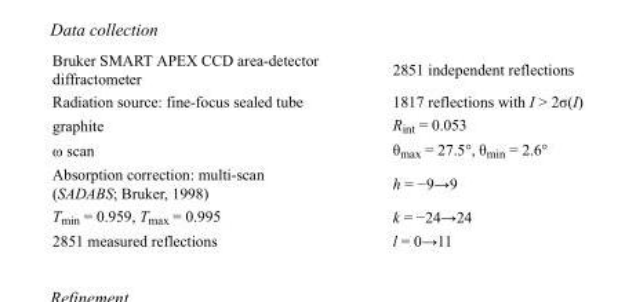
<table><tbody><tr><td>Bruker SMART APEX CCD area-detector diffractometer</td><td>2851 independent reflections</td></tr><tr><td>Radiation source: fine-focus sealed tube</td><td>1817 reflections with I &gt; 2σ(I)</td></tr><tr><td>graphite</td><td>R<sub>int</sub> = 0.053</td></tr><tr><td>ω scan</td><td>θ<sub>max</sub> = 27.5°, θ<sub>min</sub> = 2.6°</td></tr><tr><td>Absorption correction: multi-scan (SADABS; Bruker, 1998)</td><td>h = −9→9</td></tr><tr><td>T<sub>min</sub> = 0.959, T<sub>max</sub> = 0.995</td><td>k = −24→24</td></tr><tr><td>2851 measured reflections</td><td>l = 0→11</td></tr></tbody></table>